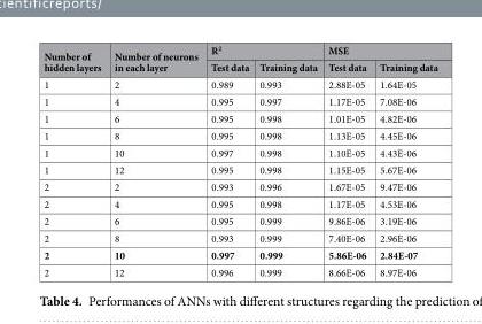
<table><thead><tr><td rowspan="2">Number of hidden layers</td><td rowspan="2">Number of neurons in each layer</td><td colspan="2">R<sup>2</sup></td><td colspan="2">MSE</td></tr><tr><td>Test data</td><td>Training data</td><td>Test data</td><td>Training data</td></tr></thead><tbody><tr><td>1</td><td>2</td><td>0.989</td><td>0.993</td><td>2.88E-05</td><td>1.64E-05</td></tr><tr><td>1</td><td>4</td><td>0.995</td><td>0.997</td><td>1.17E-05</td><td>7.08E-06</td></tr><tr><td>1</td><td>6</td><td>0.995</td><td>0.998</td><td>1.01E-05</td><td>4.82E-06</td></tr><tr><td>1</td><td>8</td><td>0.995</td><td>0.998</td><td>1.13E-05</td><td>4.45E-06</td></tr><tr><td>1</td><td>10</td><td>0.997</td><td>0.998</td><td>1.10E-05</td><td>4.43E-06</td></tr><tr><td>1</td><td>12</td><td>0.995</td><td>0.998</td><td>1.15E-05</td><td>5.67E-06</td></tr><tr><td>2</td><td>2</td><td>0.993</td><td>0.996</td><td>1.67E-05</td><td>9.47E-06</td></tr><tr><td>2</td><td>4</td><td>0.995</td><td>0.998</td><td>1.17E-05</td><td>4.53E-06</td></tr><tr><td>2</td><td>6</td><td>0.995</td><td>0.999</td><td>9.86E-06</td><td>3.19E-06</td></tr><tr><td>2</td><td>8</td><td>0.993</td><td>0.999</td><td>7.40E-06</td><td>2.96E-06</td></tr><tr><td>2</td><td>10</td><td>0.997</td><td>0.999</td><td>5.86E-06</td><td>2.84E-07</td></tr><tr><td>2</td><td>12</td><td>0.996</td><td>0.999</td><td>8.66E-06</td><td>8.97E-06</td></tr></tbody></table>